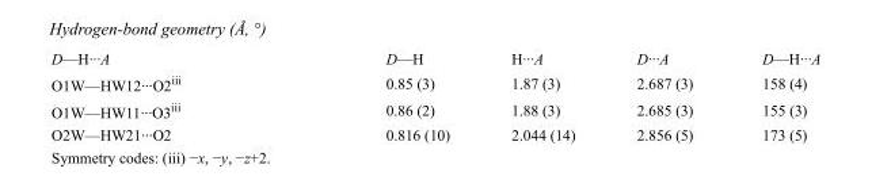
<table><tbody><tr><td>D—H···A</td><td>D—H</td><td>H···A</td><td>D···A</td><td>D—H···A</td></tr><tr><td>O1W—HW12···O2<sup>iii</sup></td><td>0.85 (3)</td><td>1.87 (3)</td><td>2.687 (3)</td><td>158 (4)</td></tr><tr><td>O1W—HW11···O3<sup>iii</sup></td><td>0.86 (2)</td><td>1.88 (3)</td><td>2.685 (3)</td><td>155 (3)</td></tr><tr><td>O2W—HW21···O2</td><td>0.816 (10)</td><td>2.044 (14)</td><td>2.856 (5)</td><td>173 (5)</td></tr></tbody></table>